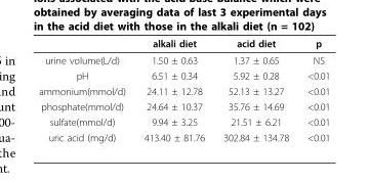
<table><thead><tr><td></td><td>alkali diet</td><td>acid diet</td><td>p</td></tr></thead><tbody><tr><td>urine volume(L/d)</td><td>1.50 ± 0.63</td><td>1.37 ± 0.65</td><td>NS</td></tr><tr><td>pH</td><td>6.51 ± 0.34</td><td>5.92 ± 0.28</td><td>&lt;0.01</td></tr><tr><td>ammonium(mmol/d)</td><td>24.11 ± 12.78</td><td>52.13 ± 13.27</td><td>&lt;0.01</td></tr><tr><td>phosphate(mmol/d)</td><td>24.64 ± 10.37</td><td>35.76 ± 14.69</td><td>&lt;0.01</td></tr><tr><td>sulfate(mmol/d)</td><td>9.94 ± 3.25</td><td>21.51 ± 6.21</td><td>&lt;0.01</td></tr><tr><td>uric acid (mg/d)</td><td>413.40 ± 81.76</td><td>302.84 ± 134.78</td><td>&lt;0.01</td></tr></tbody></table>